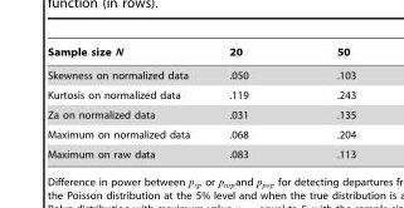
<table><thead><tr><td>Sample size N</td><td>20</td><td>50</td></tr></thead><tbody><tr><td>Skewness on normalized data</td><td>.050</td><td>.103</td></tr><tr><td>Kurtosis on normalized data</td><td>.119</td><td>.243</td></tr><tr><td>Za on normalized data</td><td>.031</td><td>.135</td></tr><tr><td>Maximum on normalized data</td><td>.068</td><td>.204</td></tr><tr><td>Maximum on raw data</td><td>.083</td><td>.113</td></tr></tbody></table>